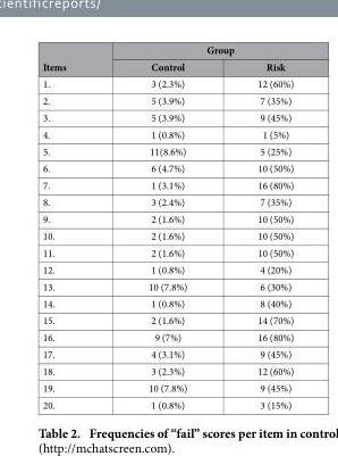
<table><thead><tr><td rowspan="2">Items</td><td colspan="2">Group</td></tr><tr><td>Control</td><td>Risk</td></tr></thead><tbody><tr><td>1.</td><td>3 (2.3%)</td><td>12 (60%)</td></tr><tr><td>2.</td><td>5 (3.9%)</td><td>7 (35%)</td></tr><tr><td>3.</td><td>5 (3.9%)</td><td>9 (45%)</td></tr><tr><td>4.</td><td>1 (0.8%)</td><td>1 (5%)</td></tr><tr><td>5.</td><td>11(8.6%)</td><td>5 (25%)</td></tr><tr><td>6.</td><td>6 (4.7%)</td><td>10 (50%)</td></tr><tr><td>7.</td><td>1 (3.1%)</td><td>16 (80%)</td></tr><tr><td>8.</td><td>3 (2.4%)</td><td>7 (35%)</td></tr><tr><td>9.</td><td>2 (1.6%)</td><td>10 (50%)</td></tr><tr><td>10.</td><td>2 (1.6%)</td><td>10 (50%)</td></tr><tr><td>11.</td><td>2 (1.6%)</td><td>10 (50%)</td></tr><tr><td>12.</td><td>1 (0.8%)</td><td>4 (20%)</td></tr><tr><td>13.</td><td>10 (7.8%)</td><td>6 (30%)</td></tr><tr><td>14.</td><td>1 (0.8%)</td><td>8 (40%)</td></tr><tr><td>15.</td><td>2 (1.6%)</td><td>14 (70%)</td></tr><tr><td>16.</td><td>9 (7%)</td><td>16 (80%)</td></tr><tr><td>17.</td><td>4 (3.1%)</td><td>9 (45%)</td></tr><tr><td>18.</td><td>3 (2.3%)</td><td>12 (60%)</td></tr><tr><td>19.</td><td>10 (7.8%)</td><td>9 (45%)</td></tr><tr><td>20.</td><td>1 (0.8%)</td><td>3 (15%)</td></tr></tbody></table>